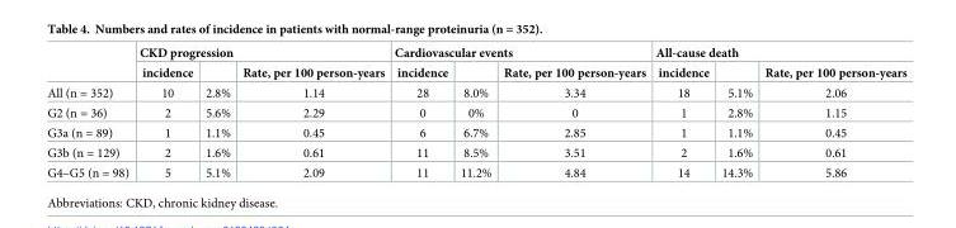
<table><thead><tr><td rowspan="2"></td><td colspan="3">CKD progression</td><td colspan="3">Cardiovascular events</td><td colspan="3">All-cause death</td></tr><tr><td>incidence</td><td></td><td>Rate, per 100 person-years</td><td>incidence</td><td></td><td>Rate, per 100 person-years</td><td>incidence</td><td></td><td>Rate, per 100 person-years</td></tr></thead><tbody><tr><td>All (n = 352)</td><td>10</td><td>2.8%</td><td>1.14</td><td>28</td><td>8.0%</td><td>3.34</td><td>18</td><td>5.1%</td><td>2.06</td></tr><tr><td>G2 (n = 36)</td><td>2</td><td>5.6%</td><td>2.29</td><td>0</td><td>0%</td><td>0</td><td>1</td><td>2.8%</td><td>1.15</td></tr><tr><td>G3a (n = 89)</td><td>1</td><td>1.1%</td><td>0.45</td><td>6</td><td>6.7%</td><td>2.85</td><td>1</td><td>1.1%</td><td>0.45</td></tr><tr><td>G3b (n = 129)</td><td>2</td><td>1.6%</td><td>0.61</td><td>11</td><td>8.5%</td><td>3.51</td><td>2</td><td>1.6%</td><td>0.61</td></tr><tr><td>G4–G5 (n = 98)</td><td>5</td><td>5.1%</td><td>2.09</td><td>11</td><td>11.2%</td><td>4.84</td><td>14</td><td>14.3%</td><td>5.86</td></tr></tbody></table>